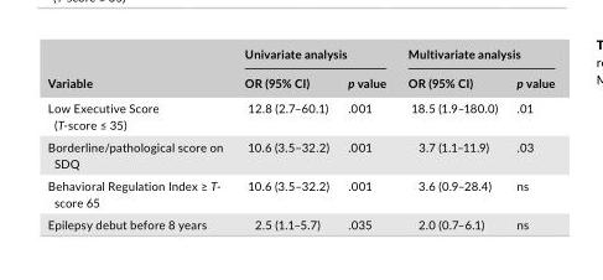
<table><thead><tr><td rowspan="2">Variable</td><td colspan="2">Univariate analysis</td><td colspan="2">Multivariate analysis</td></tr><tr><td>OR (95% CI)</td><td>p value</td><td>OR (95% CI)</td><td>p value</td></tr></thead><tbody><tr><td>Low Executive Score (T- score ≤ 35)</td><td>12.8 (2.7–60.1)</td><td>.001</td><td>18.5 (1.9–180.0)</td><td>.01</td></tr><tr><td>Borderline/pathological score on SDQ</td><td>10.6 (3.5–32.2)</td><td>.001</td><td>3.7 (1.1–11.9)</td><td>.03</td></tr><tr><td>Behavioral Regulation Index ≥ T- score 65</td><td>10.6 (3.5–32.2)</td><td>.001</td><td>3.6 (0.9–28.4)</td><td>ns</td></tr><tr><td>Epilepsy debut before 8 years</td><td>2.5 (1.1–5.7)</td><td>.035</td><td>2.0 (0.7–6.1)</td><td>ns</td></tr></tbody></table>